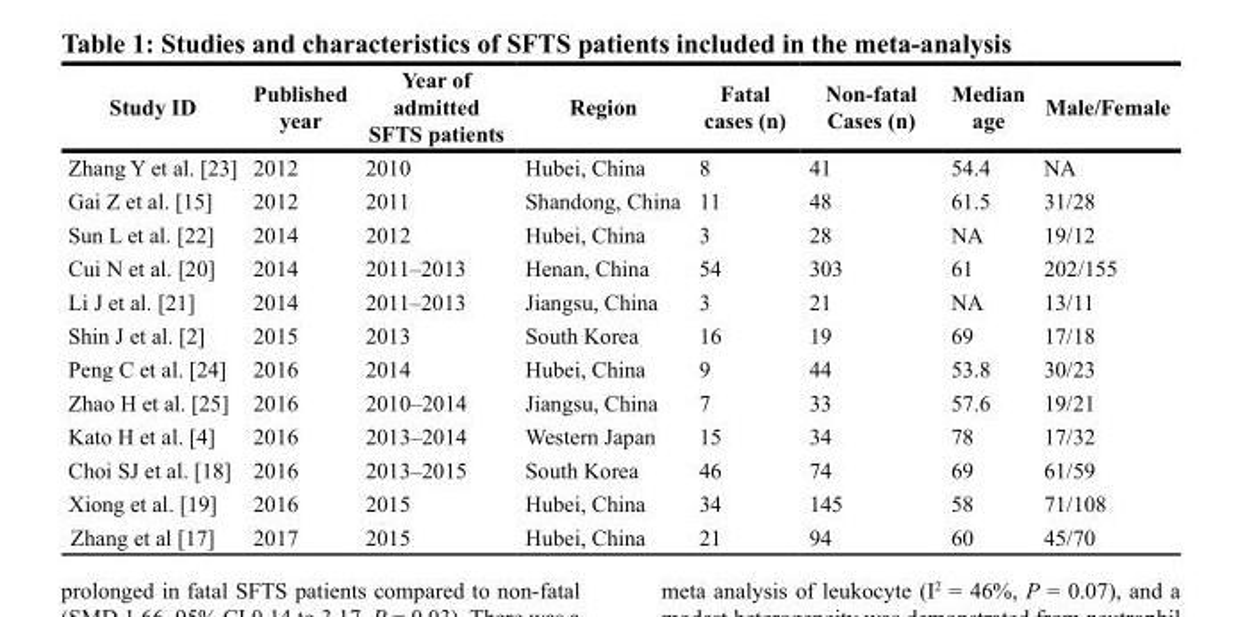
<table><thead><tr><td>Study ID</td><td>Published year</td><td>Year of admitted SFTS patients</td><td>Region</td><td>Fatal cases (n)</td><td>Non-fatal Cases (n)</td><td>Median age</td><td>Male/Female</td></tr></thead><tbody><tr><td>Zhang Y et al. [23]</td><td>2012</td><td>2010</td><td>Hubei, China</td><td>8</td><td>41</td><td>54.4</td><td>NA</td></tr><tr><td>Gai Z et al. [15]</td><td>2012</td><td>2011</td><td>Shandong, China</td><td>11</td><td>48</td><td>61.5</td><td>31/28</td></tr><tr><td>Sun L et al. [22]</td><td>2014</td><td>2012</td><td>Hubei, China</td><td>3</td><td>28</td><td>NA</td><td>19/12</td></tr><tr><td>Cui N et al. [20]</td><td>2014</td><td>2011–2013</td><td>Henan, China</td><td>54</td><td>303</td><td>61</td><td>202/155</td></tr><tr><td>Li J et al. [21]</td><td>2014</td><td>2011–2013</td><td>Jiangsu, China</td><td>3</td><td>21</td><td>NA</td><td>13/11</td></tr><tr><td>Shin J et al. [2]</td><td>2015</td><td>2013</td><td>South Korea</td><td>16</td><td>19</td><td>69</td><td>17/18</td></tr><tr><td>Peng C et al. [24]</td><td>2016</td><td>2014</td><td>Hubei, China</td><td>9</td><td>44</td><td>53.8</td><td>30/23</td></tr><tr><td>Zhao H et al. [25]</td><td>2016</td><td>2010–2014</td><td>Jiangsu, China</td><td>7</td><td>33</td><td>57.6</td><td>19/21</td></tr><tr><td>Kato H et al. [4]</td><td>2016</td><td>2013–2014</td><td>Western Japan</td><td>15</td><td>34</td><td>78</td><td>17/32</td></tr><tr><td>Choi SJ et al. [18]</td><td>2016</td><td>2013–2015</td><td>South Korea</td><td>46</td><td>74</td><td>69</td><td>61/59</td></tr><tr><td>Xiong et al. [19]</td><td>2016</td><td>2015</td><td>Hubei, China</td><td>34</td><td>145</td><td>58</td><td>71/108</td></tr><tr><td>Zhang et al [17]</td><td>2017</td><td>2015</td><td>Hubei, China</td><td>21</td><td>94</td><td>60</td><td>45/70</td></tr></tbody></table>